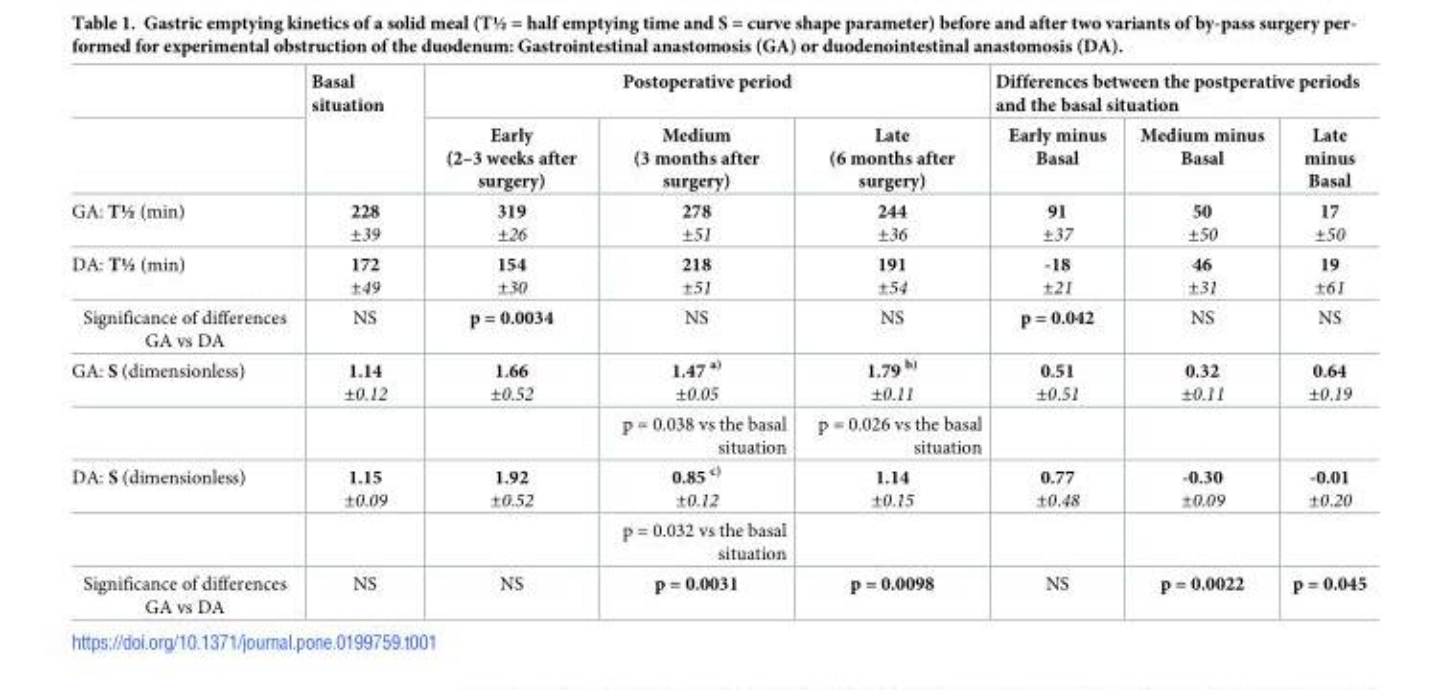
<table><thead><tr><td rowspan="2"></td><td rowspan="2">Basal situation</td><td colspan="3">Postoperative period</td><td colspan="3">Differences between the postperative periods and the basal situation</td></tr><tr><td>Early (2–3 weeks after surgery)</td><td>Medium (3 months after surgery)</td><td>Late (6 months after surgery)</td><td>Early minus Basal</td><td>Medium minus Basal</td><td>Late minus Basal</td></tr></thead><tbody><tr><td>GA: T½ (min)</td><td>228 ±39</td><td>319 ±26</td><td>278 ±51</td><td>244 ±36</td><td>91 ±37</td><td>50 ±50</td><td>17 ±50</td></tr><tr><td>DA: T½ (min)</td><td>172 ±49</td><td>154 ±30</td><td>218 ±51</td><td>191 ±54</td><td>-18 ±21</td><td>46 ±31</td><td>19 ±61</td></tr><tr><td>Significance of differences GA vs DA</td><td>NS</td><td>p = 0.0034</td><td>NS</td><td>NS</td><td>p = 0.042</td><td>NS</td><td>NS</td></tr><tr><td rowspan="2">GA: S (dimensionless)</td><td>1.14 ±0.12</td><td>1.66 ±0.52</td><td>1.47 <sup>a)</sup> ±0.05</td><td>1.79 <sup>b)</sup> ±0.11</td><td>0.51 ±0.51</td><td>0.32 ±0.11</td><td>0.64 ±0.19</td></tr><tr><td></td><td></td><td>p = 0.038 vs the basal situation</td><td>p = 0.026 vs the basal situation</td><td></td><td></td><td></td></tr><tr><td rowspan="2">DA: S (dimensionless)</td><td>1.15 ±0.09</td><td>1.92 ±0.52</td><td>0.85 <sup>c)</sup> ±0.12</td><td>1.14 ±0.15</td><td>0.77 ±0.48</td><td>-0.30 ±0.09</td><td>-0.01 ±0.20</td></tr><tr><td></td><td></td><td>p = 0.032 vs the basal situation</td><td></td><td></td><td></td><td></td></tr><tr><td>Significance of differences GA vs DA</td><td>NS</td><td>NS</td><td>p = 0.0031</td><td>p = 0.0098</td><td>NS</td><td>p = 0.0022</td><td>p = 0.045</td></tr></tbody></table>